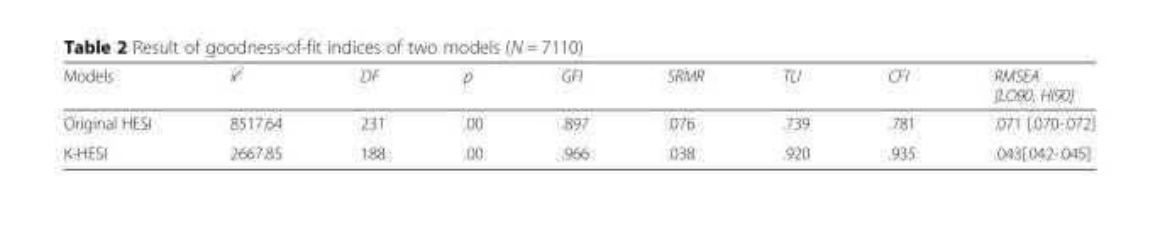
<table><thead><tr><td>Models</td><td>x<sup>2</sup></td><td>DF</td><td>p</td><td>GFI</td><td>SRMR</td><td>TLI</td><td>CFI</td><td>RMSEA [LO90, HI90]</td></tr></thead><tbody><tr><td>Original HESI</td><td>8517.64</td><td>231</td><td>.00</td><td>.897</td><td>.076</td><td>.739</td><td>.781</td><td>.071 [.070-.072]</td></tr><tr><td>K-HESI</td><td>2667.85</td><td>188</td><td>.00</td><td>.966</td><td>.038</td><td>.920</td><td>.935</td><td>.043[.042-.045]</td></tr></tbody></table>